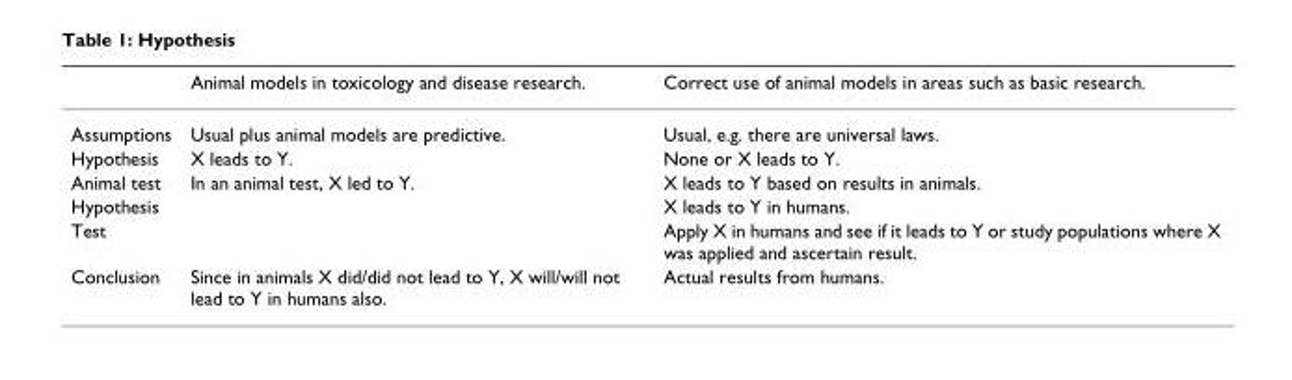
<table><thead><tr><td></td><td>Animal models in toxicology and disease research.</td><td>Correct use of animal models in areas such as basic research.</td></tr></thead><tbody><tr><td>Assumptions</td><td>Usual plus animal models are predictive.</td><td>Usual, e.g. there are universal laws.</td></tr><tr><td>Hypothesis</td><td>X leads to Y.</td><td>None or X leads to Y.</td></tr><tr><td>Animal test</td><td>In an animal test, X led to Y.</td><td>X leads to Y based on results in animals.</td></tr><tr><td>Hypothesis</td><td></td><td>X leads to Y in humans.</td></tr><tr><td>Test</td><td></td><td>Apply X in humans and see if it leads to Y or study populations where X was applied and ascertain result.</td></tr><tr><td>Conclusion</td><td>Since in animals X did/did not lead to Y, X will/will not lead to Y in humans also.</td><td>Actual results from humans.</td></tr></tbody></table>